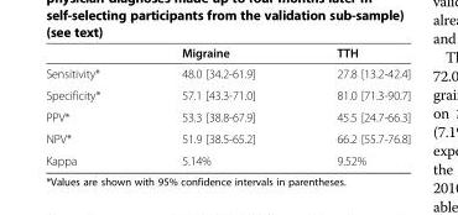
<table><thead><tr><td></td><td>Migraine</td><td>TTH</td></tr></thead><tbody><tr><td>Sensitivity*</td><td>48.0 [34.2-61.9]</td><td>27.8 [13.2-42.4]</td></tr><tr><td>Specificity*</td><td>57.1 [43.3-71.0]</td><td>81.0 [71.3-90.7]</td></tr><tr><td>PPV*</td><td>53.3 [38.8-67.9]</td><td>45.5 [24.7-66.3]</td></tr><tr><td>NPV*</td><td>51.9 [38.5-65.2]</td><td>66.2 [55.7-76.8]</td></tr><tr><td>Kappa</td><td>5.14%</td><td>9.52%</td></tr></tbody></table>